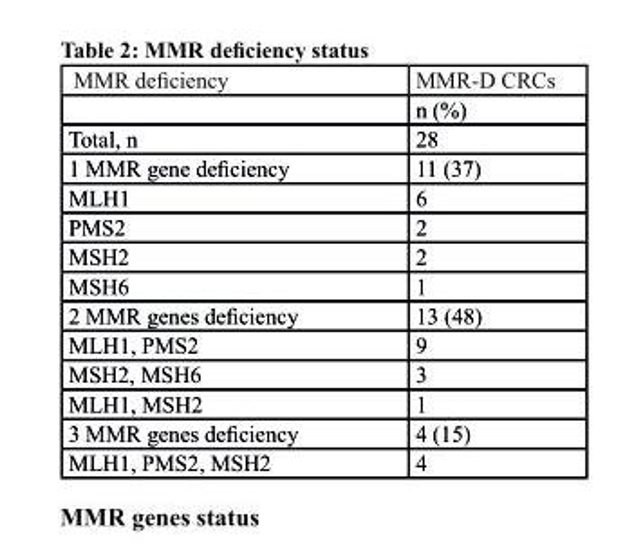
<table><thead><tr><td>MMR deficiency</td><td>MMR-D CRCs</td></tr></thead><tbody><tr><td></td><td>n (%)</td></tr><tr><td>Total, n</td><td>28</td></tr><tr><td>1 MMR gene deficiency</td><td>11 (37)</td></tr><tr><td>MLH1</td><td>6</td></tr><tr><td>PMS2</td><td>2</td></tr><tr><td>MSH2</td><td>2</td></tr><tr><td>MSH6</td><td>1</td></tr><tr><td>2 MMR genes deficiency</td><td>13 (48)</td></tr><tr><td>MLH1, PMS2</td><td>9</td></tr><tr><td>MSH2, MSH6</td><td>3</td></tr><tr><td>MLH1, MSH2</td><td>1</td></tr><tr><td>3 MMR genes deficiency</td><td>4 (15)</td></tr><tr><td>MLH1, PMS2, MSH2</td><td>4</td></tr></tbody></table>